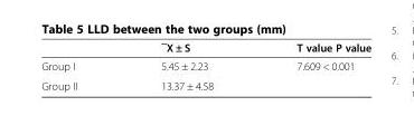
<table><thead><tr><td></td><td>‾X ± S</td><td>T value P value</td></tr></thead><tbody><tr><td>Group I</td><td>5.45 ± 2.23</td><td>7.609 &lt; 0.001</td></tr><tr><td>Group II</td><td>13.37 ± 4.58</td><td></td></tr></tbody></table>